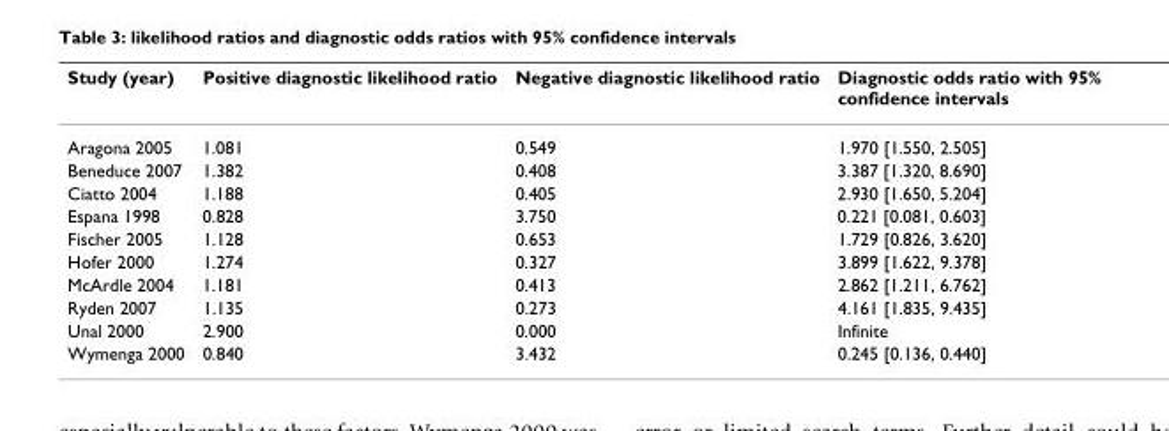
<table><thead><tr><td>Study (year)</td><td>Positive diagnostic likelihood ratio</td><td>Negative diagnostic likelihood ratio</td><td>Diagnostic odds ratio with 95% confidence intervals</td></tr></thead><tbody><tr><td>Aragona 2005</td><td>1.081</td><td>0.549</td><td>1.970 [1.550, 2.505]</td></tr><tr><td>Beneduce 2007</td><td>1.382</td><td>0.408</td><td>3.387 [1.320, 8.690]</td></tr><tr><td>Ciatto 2004</td><td>1.188</td><td>0.405</td><td>2.930 [1.650, 5.204]</td></tr><tr><td>Espana 1998</td><td>0.828</td><td>3.750</td><td>0.221 [0.081, 0.603]</td></tr><tr><td>Fischer 2005</td><td>1.128</td><td>0.653</td><td>1.729 [0.826, 3.620]</td></tr><tr><td>Hofer 2000</td><td>1.274</td><td>0.327</td><td>3.899 [1.622, 9.378]</td></tr><tr><td>McArdle 2004</td><td>1.181</td><td>0.413</td><td>2.862 [1.211, 6.762]</td></tr><tr><td>Ryden 2007</td><td>1.135</td><td>0.273</td><td>4.161 [1.835, 9.435]</td></tr><tr><td>Unal 2000</td><td>2.900</td><td>0.000</td><td>Infinite</td></tr><tr><td>Wymenga 2000</td><td>0.840</td><td>3.432</td><td>0.245 [0.136, 0.440]</td></tr></tbody></table>